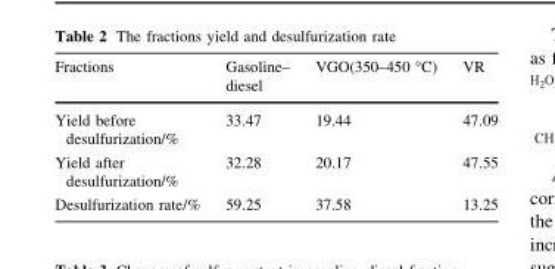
<table><thead><tr><td>Fractions</td><td>Gasoline– diesel</td><td>VGO(350–450 °C)</td><td>VR</td></tr></thead><tbody><tr><td>Yield before desulfurization/%</td><td>33.47</td><td>19.44</td><td>47.09</td></tr><tr><td>Yield after desulfurization/%</td><td>32.28</td><td>20.17</td><td>47.55</td></tr><tr><td>Desulfurization rate/%</td><td>59.25</td><td>37.58</td><td>13.25</td></tr></tbody></table>